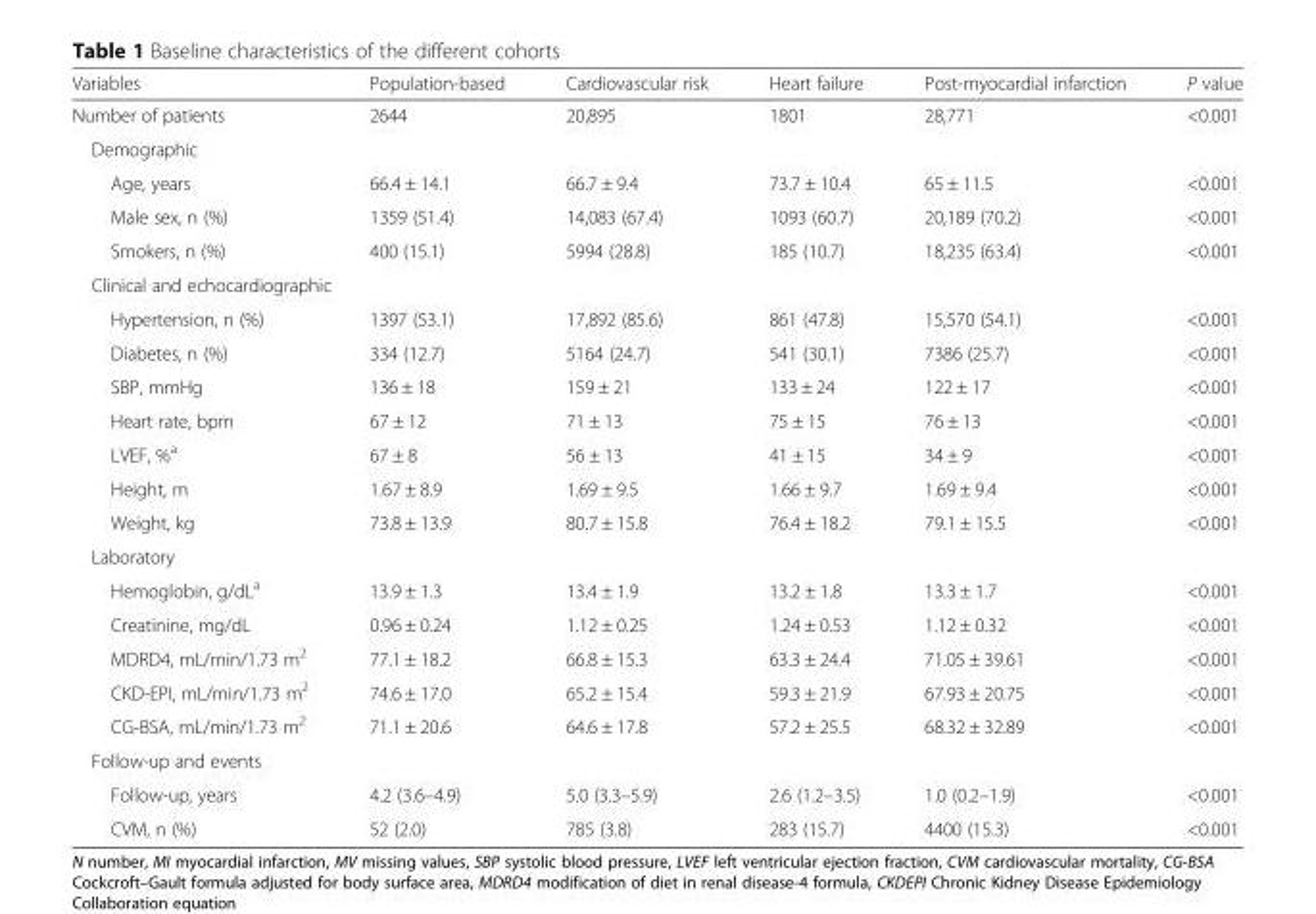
<table><thead><tr><td>Variables</td><td>Population-based</td><td>Cardiovascular risk</td><td>Heart failure</td><td>Post-myocardial infarction</td><td>P value</td></tr></thead><tbody><tr><td>Number of patients</td><td>2644</td><td>20,895</td><td>1801</td><td>28,771</td><td>&lt;0.001</td></tr><tr><td colspan="6">Demographic</td></tr><tr><td>Age, years</td><td>66.4 ± 14.1</td><td>66.7 ± 9.4</td><td>73.7 ± 10.4</td><td>65 ± 11.5</td><td>&lt;0.001</td></tr><tr><td>Male sex, n (%)</td><td>1359 (51.4)</td><td>14,083 (67.4)</td><td>1093 (60.7)</td><td>20,189 (70.2)</td><td>&lt;0.001</td></tr><tr><td>Smokers, n (%)</td><td>400 (15.1)</td><td>5994 (28.8)</td><td>185 (10.7)</td><td>18,235 (63.4)</td><td>&lt;0.001</td></tr><tr><td colspan="6">Clinical and echocardiographic</td></tr><tr><td>Hypertension, n (%)</td><td>1397 (53.1)</td><td>17,892 (85.6)</td><td>861 (47.8)</td><td>15,570 (54.1)</td><td>&lt;0.001</td></tr><tr><td>Diabetes, n (%)</td><td>334 (12.7)</td><td>5164 (24.7)</td><td>541 (30.1)</td><td>7386 (25.7)</td><td>&lt;0.001</td></tr><tr><td>SBP, mmHg</td><td>136 ± 18</td><td>159 ± 21</td><td>133 ± 24</td><td>122 ± 17</td><td>&lt;0.001</td></tr><tr><td>Heart rate, bpm</td><td>67 ± 12</td><td>71 ± 13</td><td>75 ± 15</td><td>76 ± 13</td><td>&lt;0.001</td></tr><tr><td>LVEF, %<sup>a</sup></td><td>67 ± 8</td><td>56 ± 13</td><td>41 ± 15</td><td>34 ± 9</td><td>&lt;0.001</td></tr><tr><td>Height, m</td><td>1.67 ± 8.9</td><td>1.69 ± 9.5</td><td>1.66 ± 9.7</td><td>1.69 ± 9.4</td><td>&lt;0.001</td></tr><tr><td>Weight, kg</td><td>73.8 ± 13.9</td><td>80.7 ± 15.8</td><td>76.4 ± 18.2</td><td>79.1 ± 15.5</td><td>&lt;0.001</td></tr><tr><td colspan="6">Laboratory</td></tr><tr><td>Hemoglobin, g/dL<sup>a</sup></td><td>13.9 ± 1.3</td><td>13.4 ± 1.9</td><td>13.2 ± 1.8</td><td>13.3 ± 1.7</td><td>&lt;0.001</td></tr><tr><td>Creatinine, mg/dL</td><td>0.96 ± 0.24</td><td>1.12 ± 0.25</td><td>1.24 ± 0.53</td><td>1.12 ± 0.32</td><td>&lt;0.001</td></tr><tr><td>MDRD4, mL/min/1.73 m<sup>2</sup></td><td>77.1 ± 18.2</td><td>66.8 ± 15.3</td><td>63.3 ± 24.4</td><td>71.05 ± 39.61</td><td>&lt;0.001</td></tr><tr><td>CKD-EPI, mL/min/1.73 m<sup>2</sup></td><td>74.6 ± 17.0</td><td>65.2 ± 15.4</td><td>59.3 ± 21.9</td><td>67.93 ± 20.75</td><td>&lt;0.001</td></tr><tr><td>CG-BSA, mL/min/1.73 m<sup>2</sup></td><td>71.1 ± 20.6</td><td>64.6 ± 17.8</td><td>57.2 ± 25.5</td><td>68.32 ± 32.89</td><td>&lt;0.001</td></tr><tr><td colspan="6">Follow-up and events</td></tr><tr><td>Follow-up, years</td><td>4.2 (3.6–4.9)</td><td>5.0 (3.3–5.9)</td><td>2.6 (1.2–3.5)</td><td>1.0 (0.2–1.9)</td><td>&lt;0.001</td></tr><tr><td>CVM, n (%)</td><td>52 (2.0)</td><td>785 (3.8)</td><td>283 (15.7)</td><td>4400 (15.3)</td><td>&lt;0.001</td></tr></tbody></table>